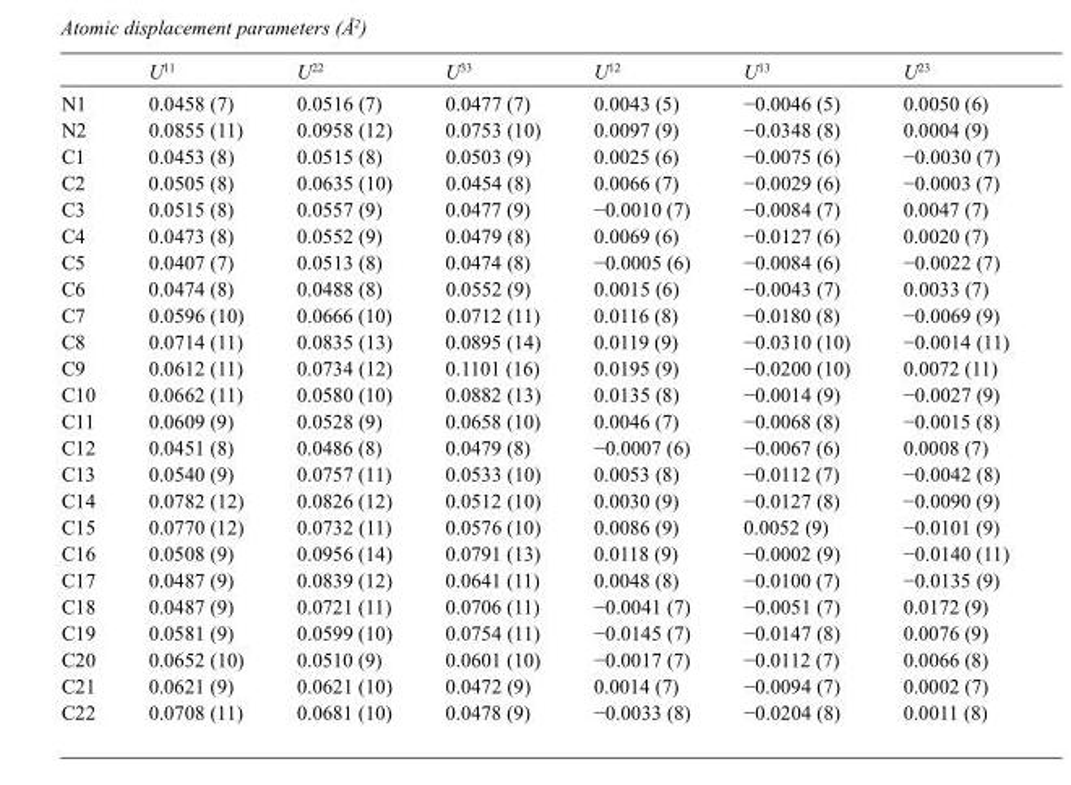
<table><thead><tr><td></td><td>U<sup>11</sup></td><td>U<sup>22</sup></td><td>U<sup>33</sup></td><td>U<sup>12</sup></td><td>U<sup>13</sup></td><td>U<sup>23</sup></td></tr></thead><tbody><tr><td>N1</td><td>0.0458 (7)</td><td>0.0516 (7)</td><td>0.0477 (7)</td><td>0.0043 (5)</td><td>−0.0046 (5)</td><td>0.0050 (6)</td></tr><tr><td>N2</td><td>0.0855 (11)</td><td>0.0958 (12)</td><td>0.0753 (10)</td><td>0.0097 (9)</td><td>−0.0348 (8)</td><td>0.0004 (9)</td></tr><tr><td>C1</td><td>0.0453 (8)</td><td>0.0515 (8)</td><td>0.0503 (9)</td><td>0.0025 (6)</td><td>−0.0075 (6)</td><td>−0.0030 (7)</td></tr><tr><td>C2</td><td>0.0505 (8)</td><td>0.0635 (10)</td><td>0.0454 (8)</td><td>0.0066 (7)</td><td>−0.0029 (6)</td><td>−0.0003 (7)</td></tr><tr><td>C3</td><td>0.0515 (8)</td><td>0.0557 (9)</td><td>0.0477 (9)</td><td>−0.0010 (7)</td><td>−0.0084 (7)</td><td>0.0047 (7)</td></tr><tr><td>C4</td><td>0.0473 (8)</td><td>0.0552 (9)</td><td>0.0479 (8)</td><td>0.0069 (6)</td><td>−0.0127 (6)</td><td>0.0020 (7)</td></tr><tr><td>C5</td><td>0.0407 (7)</td><td>0.0513 (8)</td><td>0.0474 (8)</td><td>−0.0005 (6)</td><td>−0.0084 (6)</td><td>−0.0022 (7)</td></tr><tr><td>C6</td><td>0.0474 (8)</td><td>0.0488 (8)</td><td>0.0552 (9)</td><td>0.0015 (6)</td><td>−0.0043 (7)</td><td>0.0033 (7)</td></tr><tr><td>C7</td><td>0.0596 (10)</td><td>0.0666 (10)</td><td>0.0712 (11)</td><td>0.0116 (8)</td><td>−0.0180 (8)</td><td>−0.0069 (9)</td></tr><tr><td>C8</td><td>0.0714 (11)</td><td>0.0835 (13)</td><td>0.0895 (14)</td><td>0.0119 (9)</td><td>−0.0310 (10)</td><td>−0.0014 (11)</td></tr><tr><td>C9</td><td>0.0612 (11)</td><td>0.0734 (12)</td><td>0.1101 (16)</td><td>0.0195 (9)</td><td>−0.0200 (10)</td><td>0.0072 (11)</td></tr><tr><td>C10</td><td>0.0662 (11)</td><td>0.0580 (10)</td><td>0.0882 (13)</td><td>0.0135 (8)</td><td>−0.0014 (9)</td><td>−0.0027 (9)</td></tr><tr><td>C11</td><td>0.0609 (9)</td><td>0.0528 (9)</td><td>0.0658 (10)</td><td>0.0046 (7)</td><td>−0.0068 (8)</td><td>−0.0015 (8)</td></tr><tr><td>C12</td><td>0.0451 (8)</td><td>0.0486 (8)</td><td>0.0479 (8)</td><td>−0.0007 (6)</td><td>−0.0067 (6)</td><td>0.0008 (7)</td></tr><tr><td>C13</td><td>0.0540 (9)</td><td>0.0757 (11)</td><td>0.0533 (10)</td><td>0.0053 (8)</td><td>−0.0112 (7)</td><td>−0.0042 (8)</td></tr><tr><td>C14</td><td>0.0782 (12)</td><td>0.0826 (12)</td><td>0.0512 (10)</td><td>0.0030 (9)</td><td>−0.0127 (8)</td><td>−0.0090 (9)</td></tr><tr><td>C15</td><td>0.0770 (12)</td><td>0.0732 (11)</td><td>0.0576 (10)</td><td>0.0086 (9)</td><td>0.0052 (9)</td><td>−0.0101 (9)</td></tr><tr><td>C16</td><td>0.0508 (9)</td><td>0.0956 (14)</td><td>0.0791 (13)</td><td>0.0118 (9)</td><td>−0.0002 (9)</td><td>−0.0140 (11)</td></tr><tr><td>C17</td><td>0.0487 (9)</td><td>0.0839 (12)</td><td>0.0641 (11)</td><td>0.0048 (8)</td><td>−0.0100 (7)</td><td>−0.0135 (9)</td></tr><tr><td>C18</td><td>0.0487 (9)</td><td>0.0721 (11)</td><td>0.0706 (11)</td><td>−0.0041 (7)</td><td>−0.0051 (7)</td><td>0.0172 (9)</td></tr><tr><td>C19</td><td>0.0581 (9)</td><td>0.0599 (10)</td><td>0.0754 (11)</td><td>−0.0145 (7)</td><td>−0.0147 (8)</td><td>0.0076 (9)</td></tr><tr><td>C20</td><td>0.0652 (10)</td><td>0.0510 (9)</td><td>0.0601 (10)</td><td>−0.0017 (7)</td><td>−0.0112 (7)</td><td>0.0066 (8)</td></tr><tr><td>C21</td><td>0.0621 (9)</td><td>0.0621 (10)</td><td>0.0472 (9)</td><td>0.0014 (7)</td><td>−0.0094 (7)</td><td>0.0002 (7)</td></tr><tr><td>C22</td><td>0.0708 (11)</td><td>0.0681 (10)</td><td>0.0478 (9)</td><td>−0.0033 (8)</td><td>−0.0204 (8)</td><td>0.0011 (8)</td></tr></tbody></table>